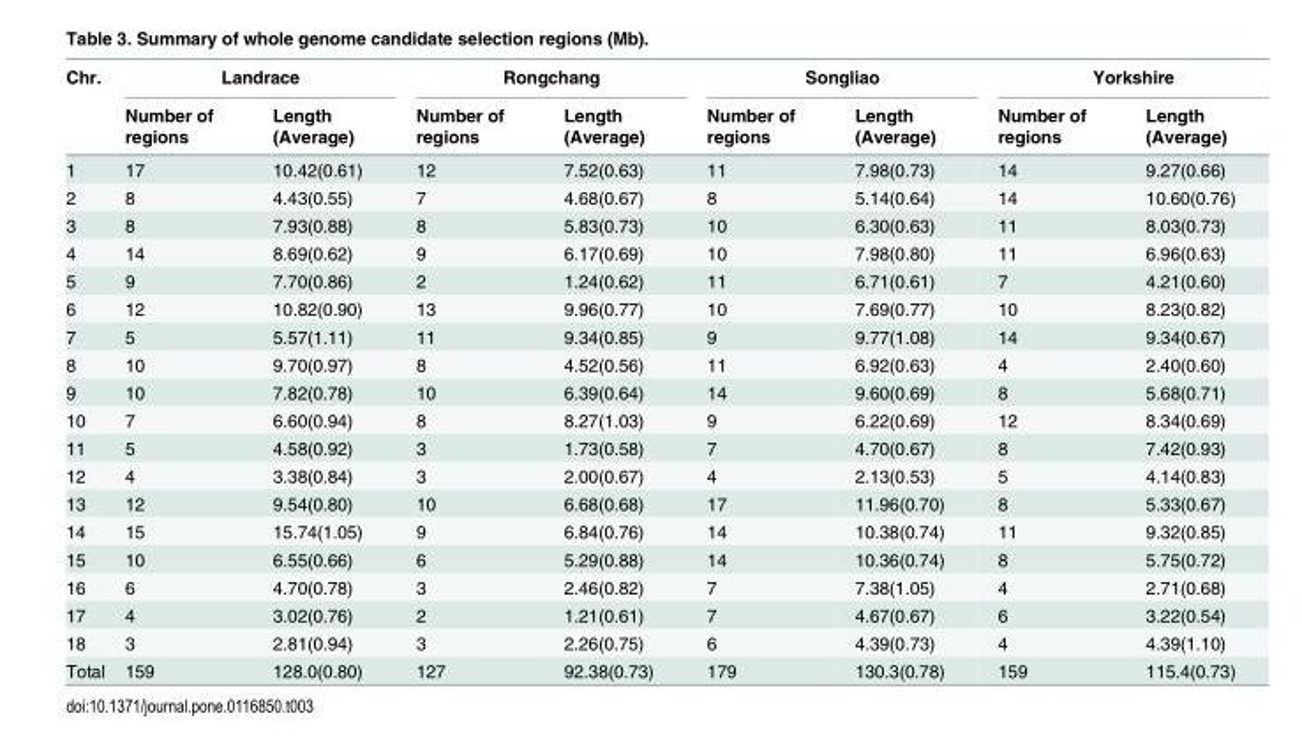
<table><thead><tr><td rowspan="2">Chr.</td><td colspan="2">Landrace</td><td colspan="2">Rongchang</td><td colspan="2">Songliao</td><td colspan="2">Yorkshire</td></tr><tr><td>Number of regions</td><td>Length (Average)</td><td>Number of regions</td><td>Length (Average)</td><td>Number of regions</td><td>Length (Average)</td><td>Number of regions</td><td>Length (Average)</td></tr></thead><tbody><tr><td>1</td><td>17</td><td>10.42(0.61)</td><td>12</td><td>7.52(0.63)</td><td>11</td><td>7.98(0.73)</td><td>14</td><td>9.27(0.66)</td></tr><tr><td>2</td><td>8</td><td>4.43(0.55)</td><td>7</td><td>4.68(0.67)</td><td>8</td><td>5.14(0.64)</td><td>14</td><td>10.60(0.76)</td></tr><tr><td>3</td><td>8</td><td>7.93(0.88)</td><td>8</td><td>5.83(0.73)</td><td>10</td><td>6.30(0.63)</td><td>11</td><td>8.03(0.73)</td></tr><tr><td>4</td><td>14</td><td>8.69(0.62)</td><td>9</td><td>6.17(0.69)</td><td>10</td><td>7.98(0.80)</td><td>11</td><td>6.96(0.63)</td></tr><tr><td>5</td><td>9</td><td>7.70(0.86)</td><td>2</td><td>1.24(0.62)</td><td>11</td><td>6.71(0.61)</td><td>7</td><td>4.21(0.60)</td></tr><tr><td>6</td><td>12</td><td>10.82(0.90)</td><td>13</td><td>9.96(0.77)</td><td>10</td><td>7.69(0.77)</td><td>10</td><td>8.23(0.82)</td></tr><tr><td>7</td><td>5</td><td>5.57(1.11)</td><td>11</td><td>9.34(0.85)</td><td>9</td><td>9.77(1.08)</td><td>14</td><td>9.34(0.67)</td></tr><tr><td>8</td><td>10</td><td>9.70(0.97)</td><td>8</td><td>4.52(0.56)</td><td>11</td><td>6.92(0.63)</td><td>4</td><td>2.40(0.60)</td></tr><tr><td>9</td><td>10</td><td>7.82(0.78)</td><td>10</td><td>6.39(0.64)</td><td>14</td><td>9.60(0.69)</td><td>8</td><td>5.68(0.71)</td></tr><tr><td>10</td><td>7</td><td>6.60(0.94)</td><td>8</td><td>8.27(1.03)</td><td>9</td><td>6.22(0.69)</td><td>12</td><td>8.34(0.69)</td></tr><tr><td>11</td><td>5</td><td>4.58(0.92)</td><td>3</td><td>1.73(0.58)</td><td>7</td><td>4.70(0.67)</td><td>8</td><td>7.42(0.93)</td></tr><tr><td>12</td><td>4</td><td>3.38(0.84)</td><td>3</td><td>2.00(0.67)</td><td>4</td><td>2.13(0.53)</td><td>5</td><td>4.14(0.83)</td></tr><tr><td>13</td><td>12</td><td>9.54(0.80)</td><td>10</td><td>6.68(0.68)</td><td>17</td><td>11.96(0.70)</td><td>8</td><td>5.33(0.67)</td></tr><tr><td>14</td><td>15</td><td>15.74(1.05)</td><td>9</td><td>6.84(0.76)</td><td>14</td><td>10.38(0.74)</td><td>11</td><td>9.32(0.85)</td></tr><tr><td>15</td><td>10</td><td>6.55(0.66)</td><td>6</td><td>5.29(0.88)</td><td>14</td><td>10.36(0.74)</td><td>8</td><td>5.75(0.72)</td></tr><tr><td>16</td><td>6</td><td>4.70(0.78)</td><td>3</td><td>2.46(0.82)</td><td>7</td><td>7.38(1.05)</td><td>4</td><td>2.71(0.68)</td></tr><tr><td>17</td><td>4</td><td>3.02(0.76)</td><td>2</td><td>1.21(0.61)</td><td>7</td><td>4.67(0.67)</td><td>6</td><td>3.22(0.54)</td></tr><tr><td>18</td><td>3</td><td>2.81(0.94)</td><td>3</td><td>2.26(0.75)</td><td>6</td><td>4.39(0.73)</td><td>4</td><td>4.39(1.10)</td></tr><tr><td>Total</td><td>159</td><td>128.0(0.80)</td><td>127</td><td>92.38(0.73)</td><td>179</td><td>130.3(0.78)</td><td>159</td><td>115.4(0.73)</td></tr></tbody></table>